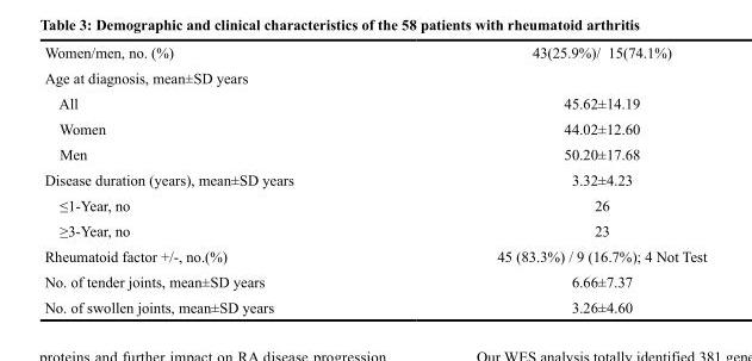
<table><tbody><tr><td>Women/men, no. (%)</td><td>43(25.9%)/ 15(74.1%)</td></tr><tr><td colspan="2">Age at diagnosis, mean±SD years</td></tr><tr><td>All</td><td>45.62±14.19</td></tr><tr><td>Women</td><td>44.02±12.60</td></tr><tr><td>Men</td><td>50.20±17.68</td></tr><tr><td>Disease duration (years), mean±SD years</td><td>3.32±4.23</td></tr><tr><td>≤1-Year, no</td><td>26</td></tr><tr><td>≥3-Year, no</td><td>23</td></tr><tr><td>Rheumatoid factor +/-, no.(%)</td><td>45 (83.3%) / 9 (16.7%); 4 Not Test</td></tr><tr><td>No. of tender joints, mean±SD years</td><td>6.66±7.37</td></tr><tr><td>No. of swollen joints, mean±SD years</td><td>3.26±4.60</td></tr></tbody></table>